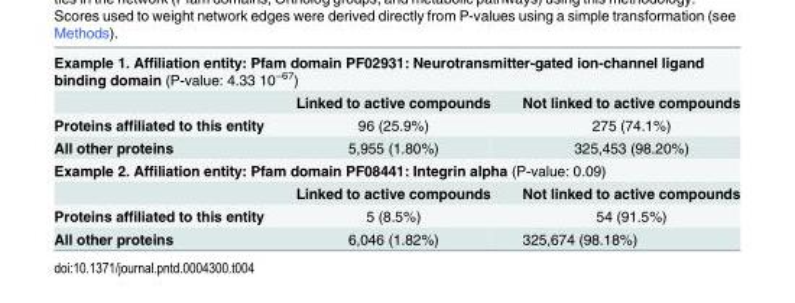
<table><tbody><tr><td colspan="3">Example 1. Affiliation entity: Pfam domain PF02931: Neurotransmitter-gated ion-channel ligand binding domain (P-value: 4.33 10<sup>−67</sup>)</td></tr><tr><td></td><td>Linked to active compounds</td><td>Not linked to active compounds</td></tr><tr><td>Proteins affiliated to this entity</td><td>96 (25.9%)</td><td>275 (74.1%)</td></tr><tr><td>All other proteins</td><td>5,955 (1.80%)</td><td>325,453 (98.20%)</td></tr><tr><td colspan="3">Example 2. Affiliation entity: Pfam domain PF08441: Integrin alpha (P-value: 0.09)</td></tr><tr><td></td><td>Linked to active compounds</td><td>Not linked to active compounds</td></tr><tr><td>Proteins affiliated to this entity</td><td>5 (8.5%)</td><td>54 (91.5%)</td></tr><tr><td>All other proteins</td><td>6,046 (1.82%)</td><td>325,674 (98.18%)</td></tr></tbody></table>